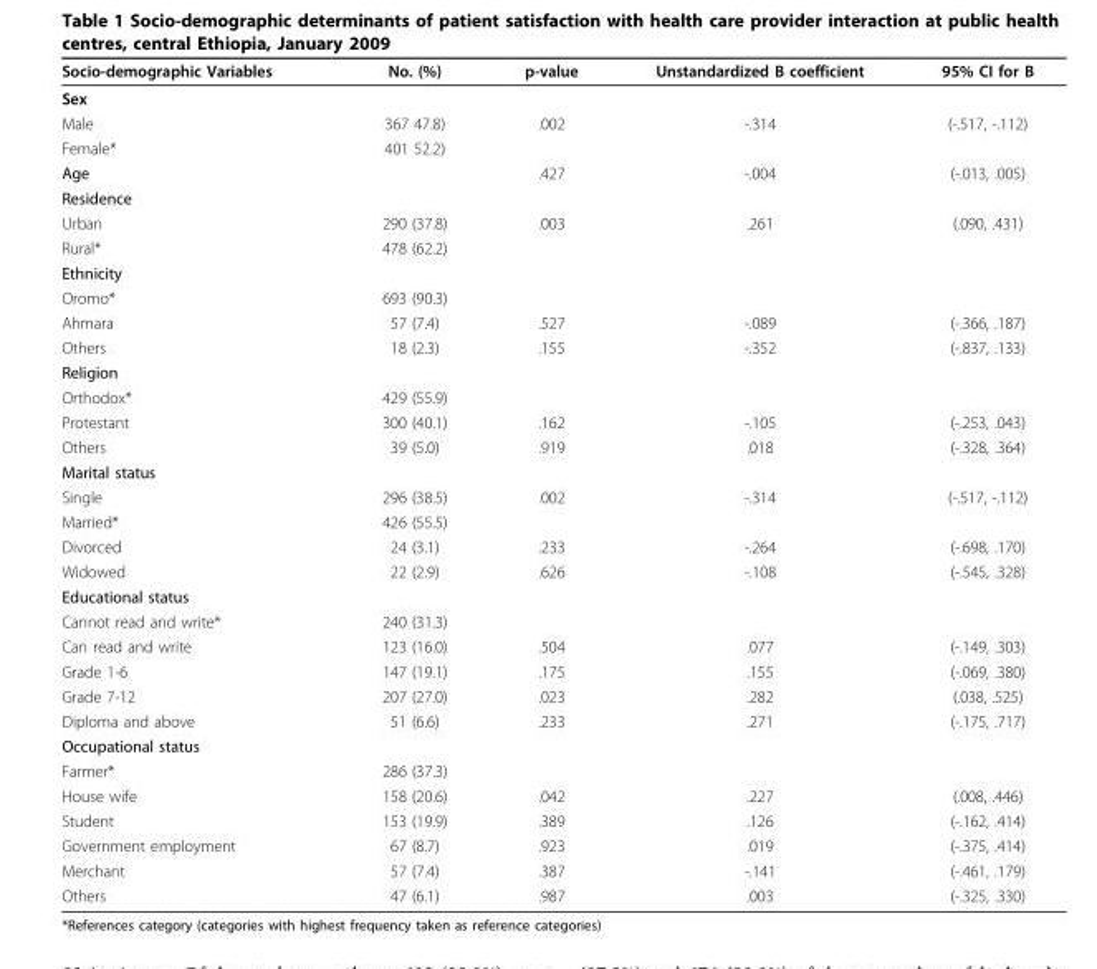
<table><thead><tr><td>Socio-demographic Variables</td><td>No. (%)</td><td>p-value</td><td>Unstandardized B coefficient</td><td>95% CI for B</td></tr></thead><tbody><tr><td colspan="5">Sex</td></tr><tr><td>Male</td><td>367 47.8)</td><td>.002</td><td>-.314</td><td>(-.517, -.112)</td></tr><tr><td>Female*</td><td>401 52.2)</td><td></td><td></td><td></td></tr><tr><td>Age</td><td></td><td>.427</td><td>-.004</td><td>(-.013, .005)</td></tr><tr><td colspan="5">Residence</td></tr><tr><td>Urban</td><td>290 (37.8)</td><td>.003</td><td>.261</td><td>(.090, .431)</td></tr><tr><td>Rural*</td><td>478 (62.2)</td><td></td><td></td><td></td></tr><tr><td colspan="5">Ethnicity</td></tr><tr><td>Oromo*</td><td>693 (90.3)</td><td></td><td></td><td></td></tr><tr><td>Ahmara</td><td>57 (7.4)</td><td>.527</td><td>-.089</td><td>(-.366, .187)</td></tr><tr><td>Others</td><td>18 (2.3)</td><td>.155</td><td>-.352</td><td>(-.837, .133)</td></tr><tr><td colspan="5">Religion</td></tr><tr><td>Orthodox*</td><td>429 (55.9)</td><td></td><td></td><td></td></tr><tr><td>Protestant</td><td>300 (40.1)</td><td>.162</td><td>-.105</td><td>(-.253, .043)</td></tr><tr><td>Others</td><td>39 (5.0)</td><td>.919</td><td>.018</td><td>(-.328, .364)</td></tr><tr><td colspan="5">Marital status</td></tr><tr><td>Single</td><td>296 (38.5)</td><td>.002</td><td>-.314</td><td>(-.517, -.112)</td></tr><tr><td>Married*</td><td>426 (55.5)</td><td></td><td></td><td></td></tr><tr><td>Divorced</td><td>24 (3.1)</td><td>.233</td><td>-.264</td><td>(-.698, .170)</td></tr><tr><td>Widowed</td><td>22 (2.9)</td><td>.626</td><td>-.108</td><td>(-.545, .328)</td></tr><tr><td colspan="5">Educational status</td></tr><tr><td>Cannot read and write*</td><td>240 (31.3)</td><td></td><td></td><td></td></tr><tr><td>Can read and write</td><td>123 (16.0)</td><td>.504</td><td>.077</td><td>(-.149, .303)</td></tr><tr><td>Grade 1-6</td><td>147 (19.1)</td><td>.175</td><td>.155</td><td>(-.069, .380)</td></tr><tr><td>Grade 7-12</td><td>207 (27.0)</td><td>.023</td><td>.282</td><td>(.038, .525)</td></tr><tr><td>Diploma and above</td><td>51 (6.6)</td><td>.233</td><td>.271</td><td>(-.175, .717)</td></tr><tr><td colspan="5">Occupational status</td></tr><tr><td>Farmer*</td><td>286 (37.3)</td><td></td><td></td><td></td></tr><tr><td>House wife</td><td>158 (20.6)</td><td>.042</td><td>.227</td><td>(.008, .446)</td></tr><tr><td>Student</td><td>153 (19.9)</td><td>.389</td><td>.126</td><td>(-.162, .414)</td></tr><tr><td>Government employment</td><td>67 (8.7)</td><td>.923</td><td>.019</td><td>(-.375, .414)</td></tr><tr><td>Merchant</td><td>57 (7.4)</td><td>.387</td><td>-.141</td><td>(-.461, .179)</td></tr><tr><td>Others</td><td>47 (6.1)</td><td>.987</td><td>.003</td><td>(-.325, .330)</td></tr></tbody></table>